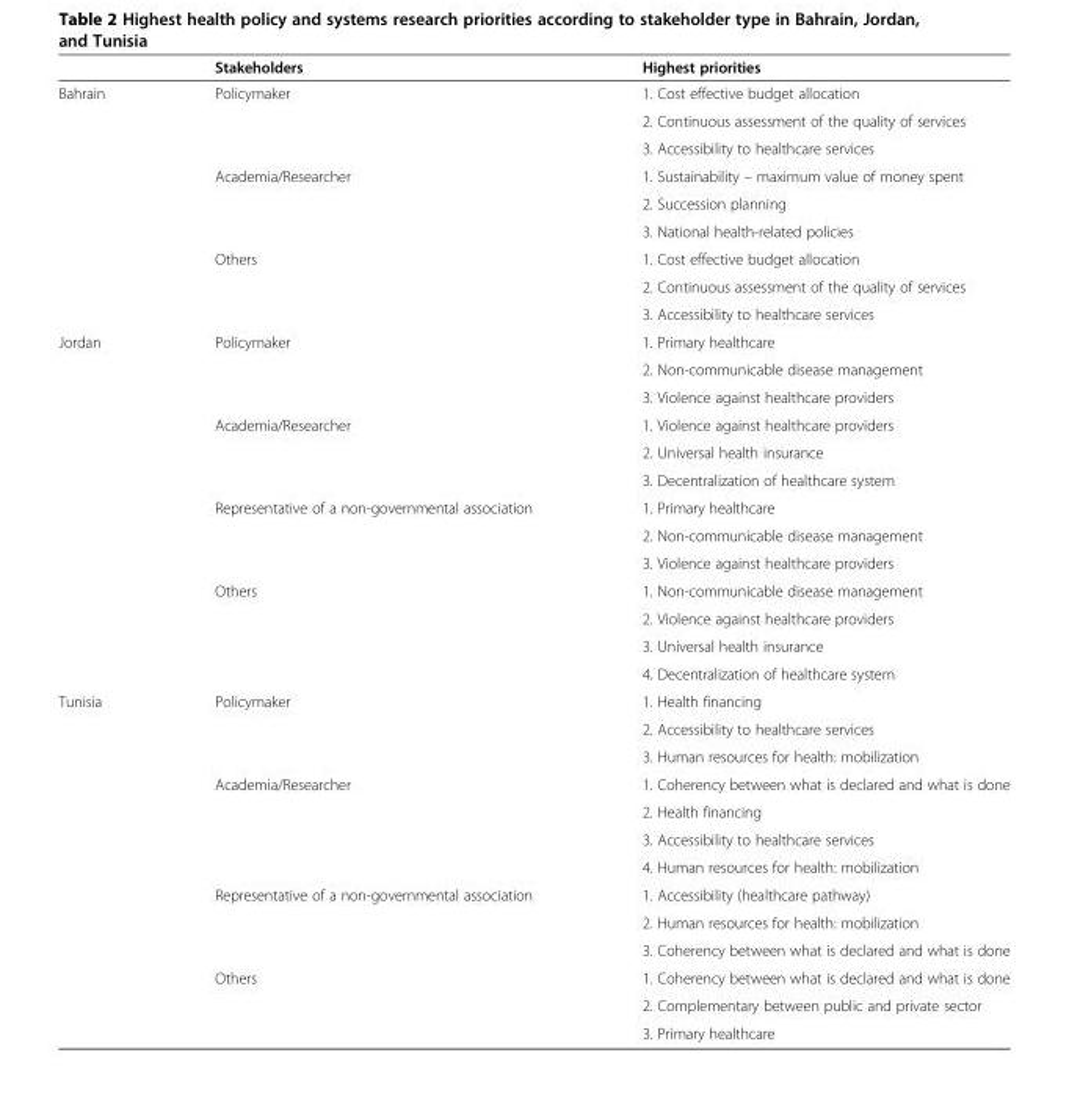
<table><thead><tr><td></td><td>Stakeholders</td><td>Highest priorities</td></tr></thead><tbody><tr><td rowspan="9">Bahrain</td><td rowspan="3">Policymaker</td><td>1. Cost effective budget allocation</td></tr><tr><td>2. Continuous assessment of the quality of services</td></tr><tr><td>3. Accessibility to healthcare services</td></tr><tr><td rowspan="3">Academia/Researcher</td><td>1. Sustainability – maximum value of money spent</td></tr><tr><td>2. Succession planning</td></tr><tr><td>3. National health-related policies</td></tr><tr><td rowspan="3">Others</td><td>1. Cost effective budget allocation</td></tr><tr><td>2. Continuous assessment of the quality of services</td></tr><tr><td>3. Accessibility to healthcare services</td></tr><tr><td rowspan="13">Jordan</td><td rowspan="3">Policymaker</td><td>1. Primary healthcare</td></tr><tr><td>2. Non-communicable disease management</td></tr><tr><td>3. Violence against healthcare providers</td></tr><tr><td rowspan="3">Academia/Researcher</td><td>1. Violence against healthcare providers</td></tr><tr><td>2. Universal health insurance</td></tr><tr><td>3. Decentralization of healthcare system</td></tr><tr><td rowspan="3">Representative of a non-governmental association</td><td>1. Primary healthcare</td></tr><tr><td>2. Non-communicable disease management</td></tr><tr><td>3. Violence against healthcare providers</td></tr><tr><td rowspan="4">Others</td><td>1. Non-communicable disease management</td></tr><tr><td>2. Violence against healthcare providers</td></tr><tr><td>3. Universal health insurance</td></tr><tr><td>4. Decentralization of healthcare system</td></tr><tr><td rowspan="13">Tunisia</td><td rowspan="3">Policymaker</td><td>1. Health financing</td></tr><tr><td>2. Accessibility to healthcare services</td></tr><tr><td>3. Human resources for health: mobilization</td></tr><tr><td rowspan="4">Academia/Researcher</td><td>1. Coherency between what is declared and what is done</td></tr><tr><td>2. Health financing</td></tr><tr><td>3. Accessibility to healthcare services</td></tr><tr><td>4. Human resources for health: mobilization</td></tr><tr><td rowspan="3">Representative of a non-governmental association</td><td>1. Accessibility (healthcare pathway)</td></tr><tr><td>2. Human resources for health: mobilization</td></tr><tr><td>3. Coherency between what is declared and what is done</td></tr><tr><td rowspan="3">Others</td><td>1. Coherency between what is declared and what is done</td></tr><tr><td>2. Complementary between public and private sector</td></tr><tr><td>3. Primary healthcare</td></tr></tbody></table>